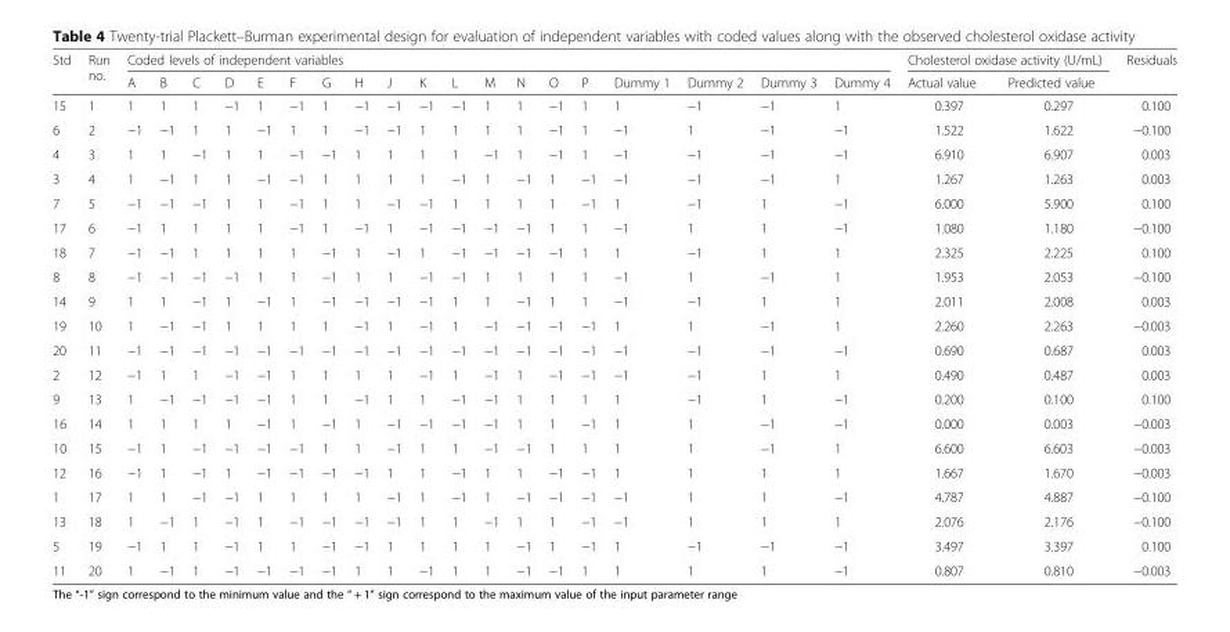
<table><thead><tr><td rowspan="2">Std</td><td rowspan="2">Run no.</td><td colspan="19">Coded levels of independent variables</td><td colspan="2">Cholesterol oxidase activity (U/mL)</td><td rowspan="2">Residuals</td></tr><tr><td>A</td><td>B</td><td>C</td><td>D</td><td>E</td><td>F</td><td>G</td><td>H</td><td>J</td><td>K</td><td>L</td><td>M</td><td>N</td><td>O</td><td>P</td><td>Dummy 1</td><td>Dummy 2</td><td>Dummy 3</td><td>Dummy 4</td><td>Actual value</td><td>Predicted value</td></tr></thead><tbody><tr><td>15</td><td>1</td><td>1</td><td>1</td><td>1</td><td>−1</td><td>1</td><td>−1</td><td>1</td><td>−1</td><td>−1</td><td>−1</td><td>−1</td><td>1</td><td>1</td><td>−1</td><td>1</td><td>1</td><td>−1</td><td>−1</td><td>1</td><td>0.397</td><td>0.297</td><td>0.100</td></tr><tr><td>6</td><td>2</td><td>−1</td><td>−1</td><td>1</td><td>1</td><td>−1</td><td>1</td><td>1</td><td>−1</td><td>−1</td><td>1</td><td>1</td><td>1</td><td>1</td><td>−1</td><td>1</td><td>−1</td><td>1</td><td>−1</td><td>−1</td><td>1.522</td><td>1.622</td><td>−0.100</td></tr><tr><td>4</td><td>3</td><td>1</td><td>1</td><td>−1</td><td>1</td><td>1</td><td>−1</td><td>−1</td><td>1</td><td>1</td><td>1</td><td>1</td><td>−1</td><td>1</td><td>−1</td><td>1</td><td>−1</td><td>−1</td><td>−1</td><td>−1</td><td>6.910</td><td>6.907</td><td>0.003</td></tr><tr><td>3</td><td>4</td><td>1</td><td>−1</td><td>1</td><td>1</td><td>−1</td><td>−1</td><td>1</td><td>1</td><td>1</td><td>1</td><td>−1</td><td>1</td><td>−1</td><td>1</td><td>−1</td><td>−1</td><td>−1</td><td>−1</td><td>1</td><td>1.267</td><td>1.263</td><td>0.003</td></tr><tr><td>7</td><td>5</td><td>−1</td><td>−1</td><td>−1</td><td>1</td><td>1</td><td>−1</td><td>1</td><td>1</td><td>−1</td><td>−1</td><td>1</td><td>1</td><td>1</td><td>1</td><td>−1</td><td>1</td><td>−1</td><td>1</td><td>−1</td><td>6.000</td><td>5.900</td><td>0.100</td></tr><tr><td>17</td><td>6</td><td>−1</td><td>1</td><td>1</td><td>1</td><td>1</td><td>−1</td><td>1</td><td>−1</td><td>1</td><td>−1</td><td>−1</td><td>−1</td><td>−1</td><td>1</td><td>1</td><td>−1</td><td>1</td><td>1</td><td>−1</td><td>1.080</td><td>1.180</td><td>−0.100</td></tr><tr><td>18</td><td>7</td><td>−1</td><td>−1</td><td>1</td><td>1</td><td>1</td><td>1</td><td>−1</td><td>1</td><td>−1</td><td>1</td><td>−1</td><td>−1</td><td>−1</td><td>−1</td><td>1</td><td>1</td><td>−1</td><td>1</td><td>1</td><td>2.325</td><td>2.225</td><td>0.100</td></tr><tr><td>8</td><td>8</td><td>−1</td><td>−1</td><td>−1</td><td>−1</td><td>1</td><td>1</td><td>−1</td><td>1</td><td>1</td><td>−1</td><td>−1</td><td>1</td><td>1</td><td>1</td><td>1</td><td>−1</td><td>1</td><td>−1</td><td>1</td><td>1.953</td><td>2.053</td><td>−0.100</td></tr><tr><td>14</td><td>9</td><td>1</td><td>1</td><td>−1</td><td>1</td><td>−1</td><td>1</td><td>−1</td><td>−1</td><td>−1</td><td>−1</td><td>1</td><td>1</td><td>−1</td><td>1</td><td>1</td><td>−1</td><td>−1</td><td>1</td><td>1</td><td>2.011</td><td>2.008</td><td>0.003</td></tr><tr><td>19</td><td>10</td><td>1</td><td>−1</td><td>−1</td><td>1</td><td>1</td><td>1</td><td>1</td><td>−1</td><td>1</td><td>−1</td><td>1</td><td>−1</td><td>−1</td><td>−1</td><td>−1</td><td>1</td><td>1</td><td>−1</td><td>1</td><td>2.260</td><td>2.263</td><td>−0.003</td></tr><tr><td>20</td><td>11</td><td>−1</td><td>−1</td><td>−1</td><td>−1</td><td>−1</td><td>−1</td><td>−1</td><td>−1</td><td>−1</td><td>−1</td><td>−1</td><td>−1</td><td>−1</td><td>−1</td><td>−1</td><td>−1</td><td>−1</td><td>−1</td><td>−1</td><td>0.690</td><td>0.687</td><td>0.003</td></tr><tr><td>2</td><td>12</td><td>−1</td><td>1</td><td>1</td><td>−1</td><td>−1</td><td>1</td><td>1</td><td>1</td><td>1</td><td>−1</td><td>1</td><td>−1</td><td>1</td><td>−1</td><td>−1</td><td>−1</td><td>−1</td><td>1</td><td>1</td><td>0.490</td><td>0.487</td><td>0.003</td></tr><tr><td>9</td><td>13</td><td>1</td><td>−1</td><td>−1</td><td>−1</td><td>−1</td><td>1</td><td>1</td><td>−1</td><td>1</td><td>1</td><td>−1</td><td>−1</td><td>1</td><td>1</td><td>1</td><td>1</td><td>−1</td><td>1</td><td>−1</td><td>0.200</td><td>0.100</td><td>0.100</td></tr><tr><td>16</td><td>14</td><td>1</td><td>1</td><td>1</td><td>1</td><td>−1</td><td>1</td><td>−1</td><td>1</td><td>−1</td><td>−1</td><td>−1</td><td>−1</td><td>1</td><td>1</td><td>−1</td><td>1</td><td>1</td><td>−1</td><td>−1</td><td>0.000</td><td>0.003</td><td>−0.003</td></tr><tr><td>10</td><td>15</td><td>−1</td><td>1</td><td>−1</td><td>−1</td><td>−1</td><td>−1</td><td>1</td><td>1</td><td>−1</td><td>1</td><td>1</td><td>−1</td><td>−1</td><td>1</td><td>1</td><td>1</td><td>1</td><td>−1</td><td>1</td><td>6.600</td><td>6.603</td><td>−0.003</td></tr><tr><td>12</td><td>16</td><td>−1</td><td>1</td><td>−1</td><td>1</td><td>−1</td><td>−1</td><td>−1</td><td>−1</td><td>1</td><td>1</td><td>−1</td><td>1</td><td>1</td><td>−1</td><td>−1</td><td>1</td><td>1</td><td>1</td><td>1</td><td>1.667</td><td>1.670</td><td>−0.003</td></tr><tr><td>1</td><td>17</td><td>1</td><td>1</td><td>−1</td><td>−1</td><td>1</td><td>1</td><td>1</td><td>1</td><td>−1</td><td>1</td><td>−1</td><td>1</td><td>−1</td><td>−1</td><td>−1</td><td>−1</td><td>1</td><td>1</td><td>−1</td><td>4.787</td><td>4.887</td><td>−0.100</td></tr><tr><td>13</td><td>18</td><td>1</td><td>−1</td><td>1</td><td>−1</td><td>1</td><td>−1</td><td>−1</td><td>−1</td><td>−1</td><td>1</td><td>1</td><td>−1</td><td>1</td><td>1</td><td>−1</td><td>−1</td><td>1</td><td>1</td><td>1</td><td>2.076</td><td>2.176</td><td>−0.100</td></tr><tr><td>5</td><td>19</td><td>−1</td><td>1</td><td>1</td><td>−1</td><td>1</td><td>1</td><td>−1</td><td>−1</td><td>1</td><td>1</td><td>1</td><td>1</td><td>−1</td><td>1</td><td>−1</td><td>1</td><td>−1</td><td>−1</td><td>−1</td><td>3.497</td><td>3.397</td><td>0.100</td></tr><tr><td>11</td><td>20</td><td>1</td><td>−1</td><td>1</td><td>−1</td><td>−1</td><td>−1</td><td>−1</td><td>1</td><td>1</td><td>−1</td><td>1</td><td>1</td><td>−1</td><td>−1</td><td>1</td><td>1</td><td>1</td><td>1</td><td>−1</td><td>0.807</td><td>0.810</td><td>−0.003</td></tr></tbody></table>